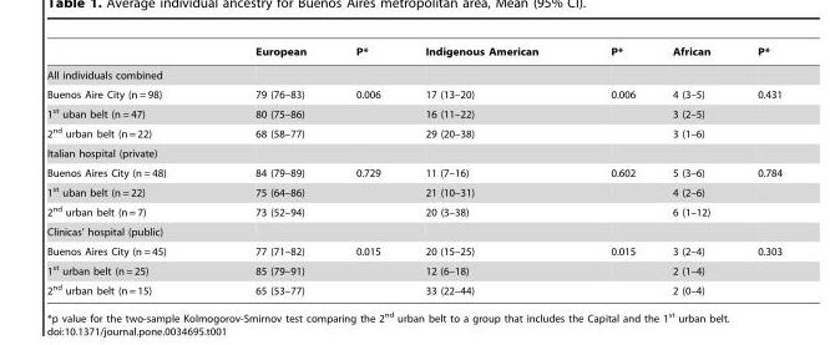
<table><thead><tr><td></td><td>European</td><td>P*</td><td>Indigenous American</td><td>P*</td><td>African</td><td>P*</td></tr></thead><tbody><tr><td colspan="7">All individuals combined</td></tr><tr><td>Buenos Aire City (n = 98)</td><td>79 (76–83)</td><td>0.006</td><td>17 (13–20)</td><td>0.006</td><td>4 (3–5)</td><td>0.431</td></tr><tr><td>1<sup>st</sup> uban belt (n = 47)</td><td>80 (75–86)</td><td></td><td>16 (11–22)</td><td></td><td>3 (2–5)</td><td></td></tr><tr><td>2<sup>nd</sup> urban belt (n = 22)</td><td>68 (58–77)</td><td></td><td>29 (20–38)</td><td></td><td>3 (1–6)</td><td></td></tr><tr><td colspan="7">Italian hospital (private)</td></tr><tr><td>Buenos Aires City (n = 48)</td><td>84 (79–89)</td><td>0.729</td><td>11 (7–16)</td><td>0.602</td><td>5 (3–6)</td><td>0.784</td></tr><tr><td>1<sup>st</sup> uban belt (n = 22)</td><td>75 (64–86)</td><td></td><td>21 (10–31)</td><td></td><td>4 (2–6)</td><td></td></tr><tr><td>2<sup>nd</sup> urban belt (n = 7)</td><td>73 (52–94)</td><td></td><td>20 (3–38)</td><td></td><td>6 (1–12)</td><td></td></tr><tr><td colspan="7">Clinicas’ hospital (public)</td></tr><tr><td>Buenos Aires City (n = 45)</td><td>77 (71–82)</td><td>0.015</td><td>20 (15–25)</td><td>0.015</td><td>3 (2–4)</td><td>0.303</td></tr><tr><td>1<sup>st</sup> urban belt (n = 25)</td><td>85 (79–91)</td><td></td><td>12 (6–18)</td><td></td><td>2 (1–4)</td><td></td></tr><tr><td>2<sup>nd</sup> urban belt (n = 15)</td><td>65 (53–77)</td><td></td><td>33 (22–44)</td><td></td><td>2 (0–4)</td><td></td></tr></tbody></table>